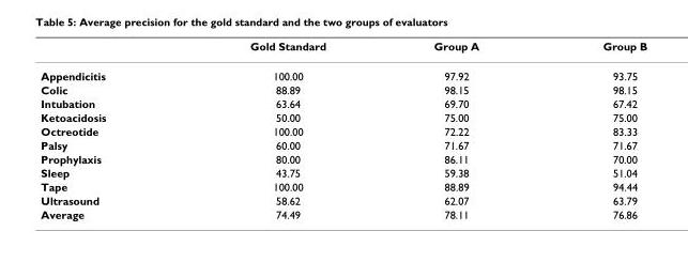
<table><thead><tr><td></td><td>Gold Standard</td><td>Group A</td><td>Group B</td></tr></thead><tbody><tr><td>Appendicitis</td><td>100.00</td><td>97.92</td><td>93.75</td></tr><tr><td>Colic</td><td>88.89</td><td>98.15</td><td>98.15</td></tr><tr><td>Intubation</td><td>63.64</td><td>69.70</td><td>67.42</td></tr><tr><td>Ketoacidosis</td><td>50.00</td><td>75.00</td><td>75.00</td></tr><tr><td>Octreotide</td><td>100.00</td><td>72.22</td><td>83.33</td></tr><tr><td>Palsy</td><td>60.00</td><td>71.67</td><td>71.67</td></tr><tr><td>Prophylaxis</td><td>80.00</td><td>86.11</td><td>70.00</td></tr><tr><td>Sleep</td><td>43.75</td><td>59.38</td><td>51.04</td></tr><tr><td>Tape</td><td>100.00</td><td>88.89</td><td>94.44</td></tr><tr><td>Ultrasound</td><td>58.62</td><td>62.07</td><td>63.79</td></tr><tr><td>Average</td><td>74.49</td><td>78.11</td><td>76.86</td></tr></tbody></table>